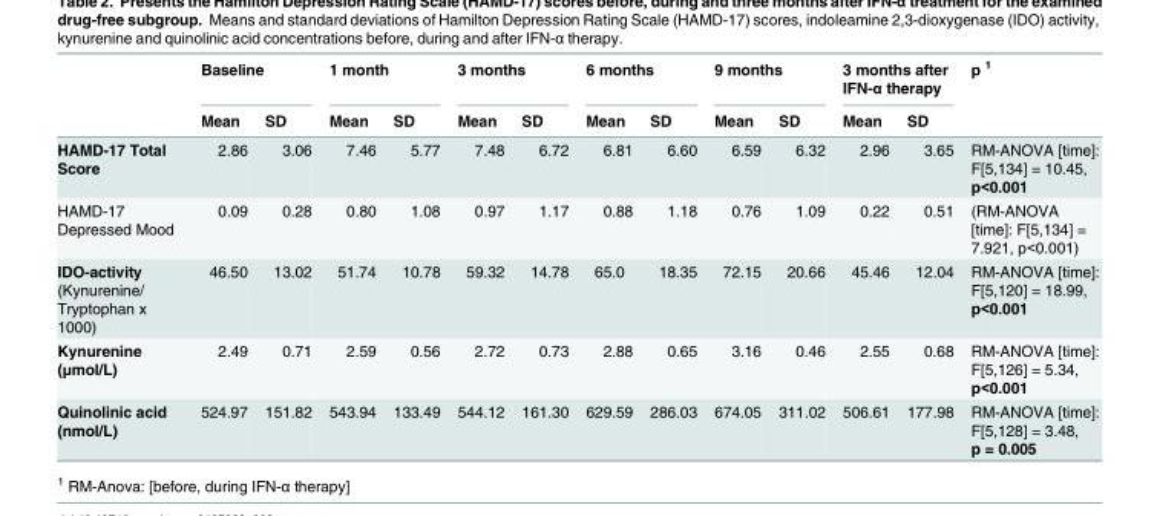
<table><thead><tr><td rowspan="2"></td><td colspan="2">Baseline</td><td colspan="2">1 month</td><td colspan="2">3 months</td><td colspan="2">6 months</td><td colspan="2">9 months</td><td colspan="2">3 months after IFN-α therapy</td><td rowspan="2">p <sup>1</sup></td></tr><tr><td>Mean</td><td>SD</td><td>Mean</td><td>SD</td><td>Mean</td><td>SD</td><td>Mean</td><td>SD</td><td>Mean</td><td>SD</td><td>Mean</td><td>SD</td></tr></thead><tbody><tr><td>HAMD-17 Total Score</td><td>2.86</td><td>3.06</td><td>7.46</td><td>5.77</td><td>7.48</td><td>6.72</td><td>6.81</td><td>6.60</td><td>6.59</td><td>6.32</td><td>2.96</td><td>3.65</td><td>RM-ANOVA [time]: F[5,134] = 10.45, p&lt;0.001</td></tr><tr><td>HAMD-17 Depressed Mood</td><td>0.09</td><td>0.28</td><td>0.80</td><td>1.08</td><td>0.97</td><td>1.17</td><td>0.88</td><td>1.18</td><td>0.76</td><td>1.09</td><td>0.22</td><td>0.51</td><td>(RM-ANOVA [time]: F[5,134] = 7.921, p&lt;0.001)</td></tr><tr><td>IDO-activity (Kynurenine/ Tryptophan x 1000)</td><td>46.50</td><td>13.02</td><td>51.74</td><td>10.78</td><td>59.32</td><td>14.78</td><td>65.0</td><td>18.35</td><td>72.15</td><td>20.66</td><td>45.46</td><td>12.04</td><td>RM-ANOVA [time]: F[5,120] = 18.99, p&lt;0.001</td></tr><tr><td>Kynurenine (μmol/L)</td><td>2.49</td><td>0.71</td><td>2.59</td><td>0.56</td><td>2.72</td><td>0.73</td><td>2.88</td><td>0.65</td><td>3.16</td><td>0.46</td><td>2.55</td><td>0.68</td><td>RM-ANOVA [time]: F[5,126] = 5.34, p&lt;0.001</td></tr><tr><td>Quinolinic acid (nmol/L)</td><td>524.97</td><td>151.82</td><td>543.94</td><td>133.49</td><td>544.12</td><td>161.30</td><td>629.59</td><td>286.03</td><td>674.05</td><td>311.02</td><td>506.61</td><td>177.98</td><td>RM-ANOVA [time]: F[5,128] = 3.48, p = 0.005</td></tr></tbody></table>